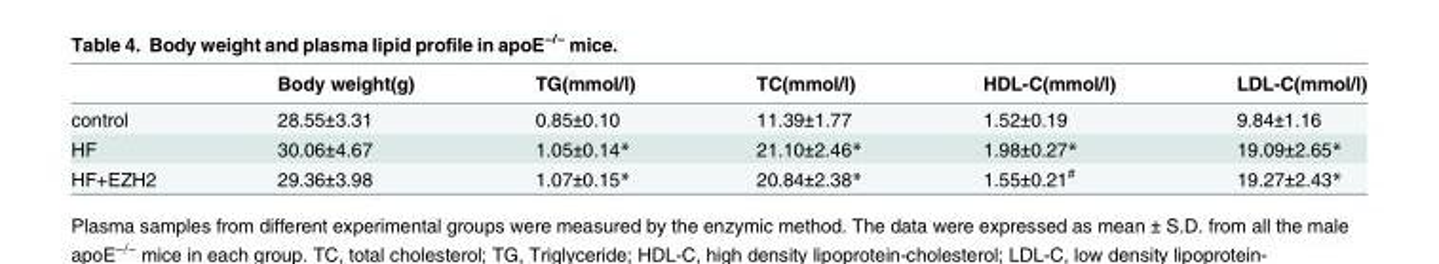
<table><thead><tr><td></td><td>Body weight(g)</td><td>TG(mmol/l)</td><td>TC(mmol/l)</td><td>HDL-C(mmol/l)</td><td>LDL-C(mmol/l)</td></tr></thead><tbody><tr><td>control</td><td>28.55±3.31</td><td>0.85±0.10</td><td>11.39±1.77</td><td>1.52±0.19</td><td>9.84±1.16</td></tr><tr><td>HF</td><td>30.06±4.67</td><td>1.05±0.14*</td><td>21.10±2.46*</td><td>1.98±0.27*</td><td>19.09±2.65*</td></tr><tr><td>HF+EZH2</td><td>29.36±3.98</td><td>1.07±0.15*</td><td>20.84±2.38*</td><td>1.55±0.21<sup>#</sup></td><td>19.27±2.43*</td></tr></tbody></table>